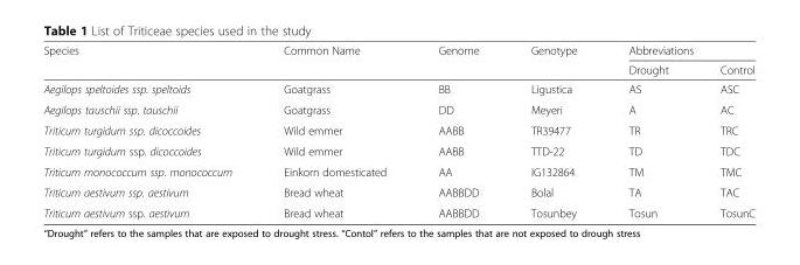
<table><thead><tr><td rowspan="2">Species</td><td rowspan="2">Common Name</td><td rowspan="2">Genome</td><td rowspan="2">Genotype</td><td colspan="2">Abbreviations</td></tr><tr><td>Drought</td><td>Control</td></tr></thead><tbody><tr><td>Aegilops speltoides ssp. speltoids</td><td>Goatgrass</td><td>BB</td><td>Ligustica</td><td>AS</td><td>ASC</td></tr><tr><td>Aegilops tauschii ssp. tauschii</td><td>Goatgrass</td><td>DD</td><td>Meyeri</td><td>A</td><td>AC</td></tr><tr><td>Triticum turgidum ssp. dicoccoides</td><td>Wild emmer</td><td>AABB</td><td>TR39477</td><td>TR</td><td>TRC</td></tr><tr><td>Triticum turgidum ssp. dicoccoides</td><td>Wild emmer</td><td>AABB</td><td>TTD-22</td><td>TD</td><td>TDC</td></tr><tr><td>Triticum monococcum ssp. monococcum</td><td>Einkorn domesticated</td><td>AA</td><td>IG132864</td><td>TM</td><td>TMC</td></tr><tr><td>Triticum aestivum ssp. aestivum</td><td>Bread wheat</td><td>AABBDD</td><td>Bolal</td><td>TA</td><td>TAC</td></tr><tr><td>Triticum aestivum ssp. aestivum</td><td>Bread wheat</td><td>AABBDD</td><td>Tosunbey</td><td>Tosun</td><td>TosunC</td></tr></tbody></table>